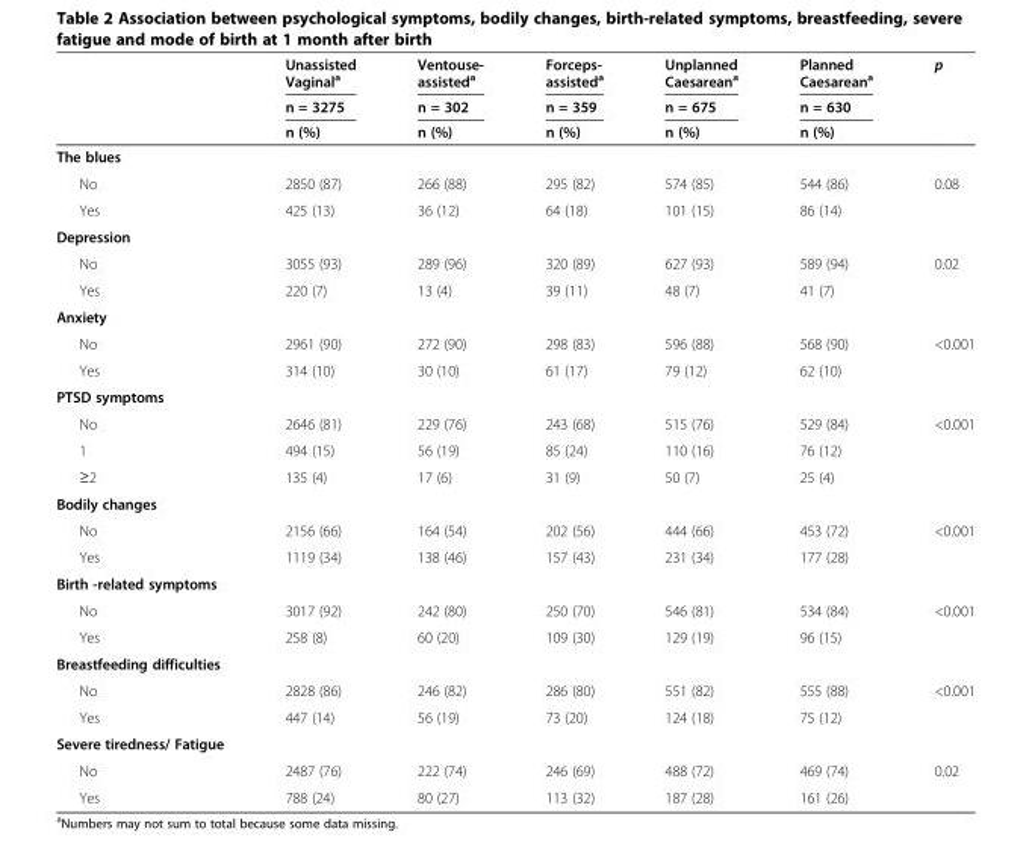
<table><thead><tr><td rowspan="3"></td><td rowspan="3">Unassisted Vaginal<sup>a</sup> n = 3275 n (%)</td><td rowspan="3">Ventouse- assisted<sup>a</sup> n = 302 n (%)</td><td rowspan="3">Forceps- assisted<sup>a</sup> n = 359 n (%)</td><td rowspan="3">Unplanned Caesarean<sup>a</sup> n = 675 n (%)</td><td rowspan="3">Planned Caesarean<sup>a</sup> n = 630 n (%)</td><td rowspan="3">p</td></tr><tr></tr><tr></tr></thead><tbody><tr><td colspan="7">The blues</td></tr><tr><td>No</td><td>2850 (87)</td><td>266 (88)</td><td>295 (82)</td><td>574 (85)</td><td>544 (86)</td><td>0.08</td></tr><tr><td>Yes</td><td>425 (13)</td><td>36 (12)</td><td>64 (18)</td><td>101 (15)</td><td>86 (14)</td><td></td></tr><tr><td colspan="7">Depression</td></tr><tr><td>No</td><td>3055 (93)</td><td>289 (96)</td><td>320 (89)</td><td>627 (93)</td><td>589 (94)</td><td>0.02</td></tr><tr><td>Yes</td><td>220 (7)</td><td>13 (4)</td><td>39 (11)</td><td>48 (7)</td><td>41 (7)</td><td></td></tr><tr><td colspan="7">Anxiety</td></tr><tr><td>No</td><td>2961 (90)</td><td>272 (90)</td><td>298 (83)</td><td>596 (88)</td><td>568 (90)</td><td>&lt;0.001</td></tr><tr><td>Yes</td><td>314 (10)</td><td>30 (10)</td><td>61 (17)</td><td>79 (12)</td><td>62 (10)</td><td></td></tr><tr><td colspan="7">PTSD symptoms</td></tr><tr><td>No</td><td>2646 (81)</td><td>229 (76)</td><td>243 (68)</td><td>515 (76)</td><td>529 (84)</td><td>&lt;0.001</td></tr><tr><td>1</td><td>494 (15)</td><td>56 (19)</td><td>85 (24)</td><td>110 (16)</td><td>76 (12)</td><td></td></tr><tr><td>≥2</td><td>135 (4)</td><td>17 (6)</td><td>31 (9)</td><td>50 (7)</td><td>25 (4)</td><td></td></tr><tr><td colspan="7">Bodily changes</td></tr><tr><td>No</td><td>2156 (66)</td><td>164 (54)</td><td>202 (56)</td><td>444 (66)</td><td>453 (72)</td><td>&lt;0.001</td></tr><tr><td>Yes</td><td>1119 (34)</td><td>138 (46)</td><td>157 (43)</td><td>231 (34)</td><td>177 (28)</td><td></td></tr><tr><td colspan="7">Birth -related symptoms</td></tr><tr><td>No</td><td>3017 (92)</td><td>242 (80)</td><td>250 (70)</td><td>546 (81)</td><td>534 (84)</td><td>&lt;0.001</td></tr><tr><td>Yes</td><td>258 (8)</td><td>60 (20)</td><td>109 (30)</td><td>129 (19)</td><td>96 (15)</td><td></td></tr><tr><td colspan="7">Breastfeeding difficulties</td></tr><tr><td>No</td><td>2828 (86)</td><td>246 (82)</td><td>286 (80)</td><td>551 (82)</td><td>555 (88)</td><td>&lt;0.001</td></tr><tr><td>Yes</td><td>447 (14)</td><td>56 (19)</td><td>73 (20)</td><td>124 (18)</td><td>75 (12)</td><td></td></tr><tr><td colspan="7">Severe tiredness/ Fatigue</td></tr><tr><td>No</td><td>2487 (76)</td><td>222 (74)</td><td>246 (69)</td><td>488 (72)</td><td>469 (74)</td><td>0.02</td></tr><tr><td>Yes</td><td>788 (24)</td><td>80 (27)</td><td>113 (32)</td><td>187 (28)</td><td>161 (26)</td><td></td></tr></tbody></table>